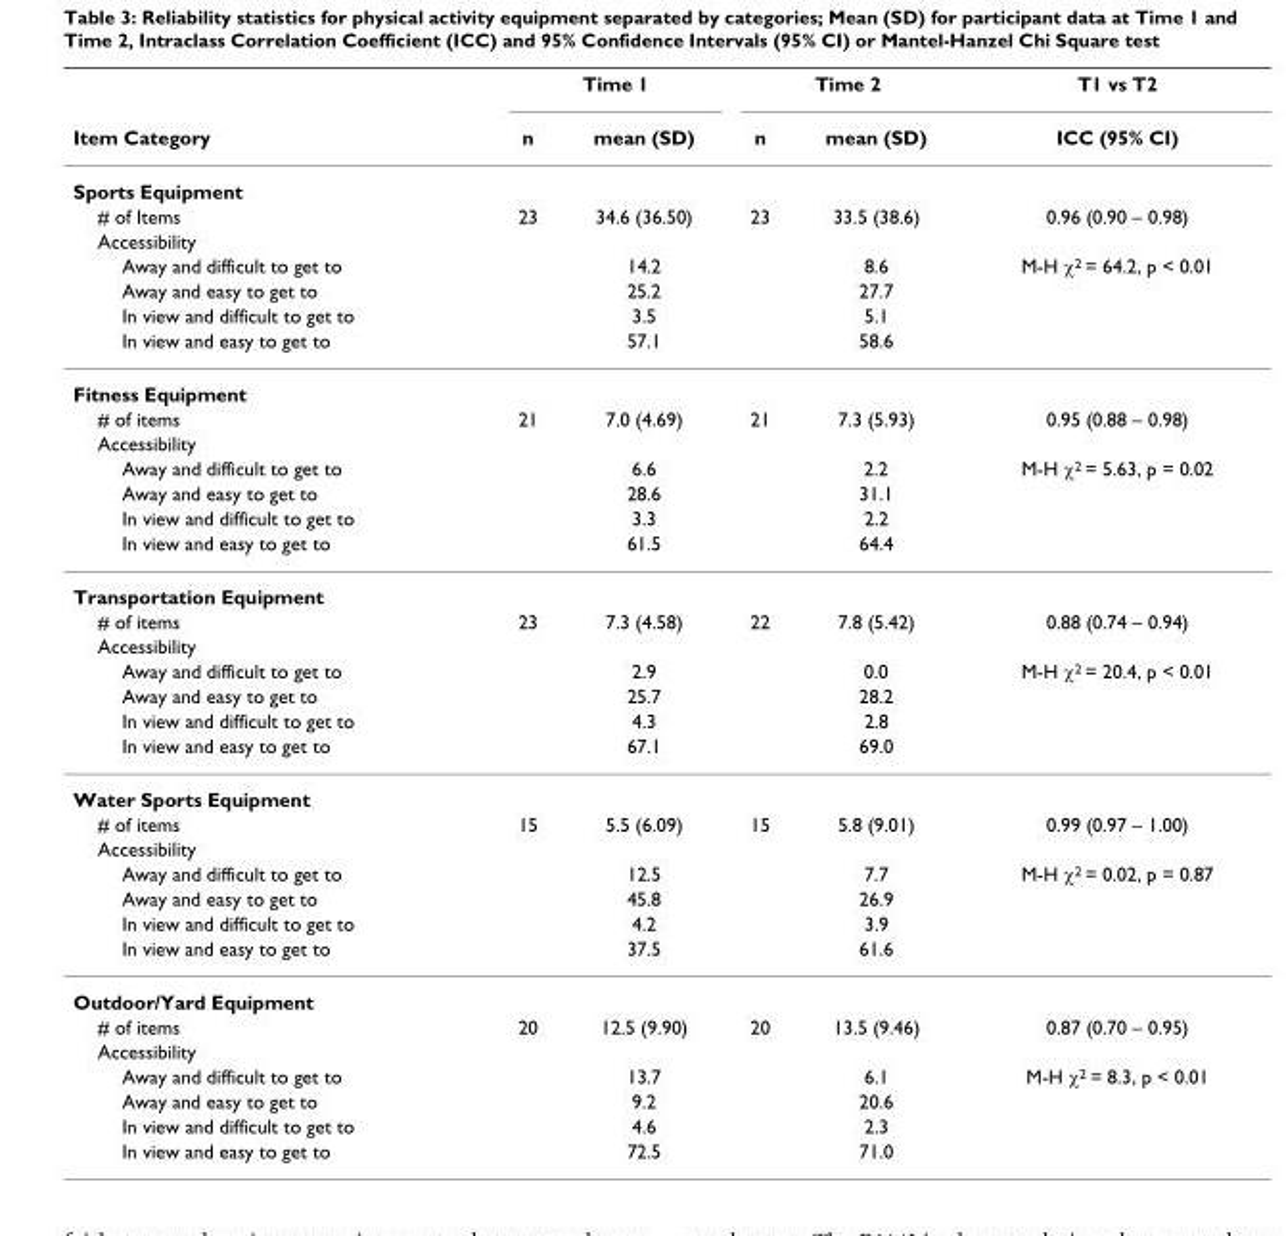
<table><thead><tr><td rowspan="2">Item Category</td><td colspan="2">Time 1</td><td colspan="2">Time 2</td><td rowspan="2">T1 vs T2 ICC (95% CI)</td></tr><tr><td>n</td><td>mean (SD)</td><td>n</td><td>mean (SD)</td></tr></thead><tbody><tr><td colspan="6">Sports Equipment</td></tr><tr><td># of Items</td><td>23</td><td>34.6 (36.50)</td><td>23</td><td>33.5 (38.6)</td><td>0.96 (0.90 – 0.98)</td></tr><tr><td colspan="6">Accessibility</td></tr><tr><td>Away and difficult to get to</td><td></td><td>14.2</td><td></td><td>8.6</td><td>M-H χ<sup>2</sup> = 64.2, p &lt; 0.01</td></tr><tr><td>Away and easy to get to</td><td></td><td>25.2</td><td></td><td>27.7</td><td></td></tr><tr><td>In view and difficult to get to</td><td></td><td>3.5</td><td></td><td>5.1</td><td></td></tr><tr><td>In view and easy to get to</td><td></td><td>57.1</td><td></td><td>58.6</td><td></td></tr><tr><td colspan="6">Fitness Equipment</td></tr><tr><td># of items</td><td>21</td><td>7.0 (4.69)</td><td>21</td><td>7.3 (5.93)</td><td>0.95 (0.88 – 0.98)</td></tr><tr><td colspan="6">Accessibility</td></tr><tr><td>Away and difficult to get to</td><td></td><td>6.6</td><td></td><td>2.2</td><td>M-H χ<sup>2</sup> = 5.63, p = 0.02</td></tr><tr><td>Away and easy to get to</td><td></td><td>28.6</td><td></td><td>31.1</td><td></td></tr><tr><td>In view and difficult to get to</td><td></td><td>3.3</td><td></td><td>2.2</td><td></td></tr><tr><td>In view and easy to get to</td><td></td><td>61.5</td><td></td><td>64.4</td><td></td></tr><tr><td colspan="6">Transportation Equipment</td></tr><tr><td># of items</td><td>23</td><td>7.3 (4.58)</td><td>22</td><td>7.8 (5.42)</td><td>0.88 (0.74 – 0.94)</td></tr><tr><td colspan="6">Accessibility</td></tr><tr><td>Away and difficult to get to</td><td></td><td>2.9</td><td></td><td>0.0</td><td>M-H χ<sup>2</sup> = 20.4, p &lt; 0.01</td></tr><tr><td>Away and easy to get to</td><td></td><td>25.7</td><td></td><td>28.2</td><td></td></tr><tr><td>In view and difficult to get to</td><td></td><td>4.3</td><td></td><td>2.8</td><td></td></tr><tr><td>In view and easy to get to</td><td></td><td>67.1</td><td></td><td>69.0</td><td></td></tr><tr><td colspan="6">Water Sports Equipment</td></tr><tr><td># of items</td><td>15</td><td>5.5 (6.09)</td><td>15</td><td>5.8 (9.01)</td><td>0.99 (0.97 – 1.00)</td></tr><tr><td colspan="6">Accessibility</td></tr><tr><td>Away and difficult to get to</td><td></td><td>12.5</td><td></td><td>7.7</td><td>M-H χ<sup>2</sup> = 0.02, p = 0.87</td></tr><tr><td>Away and easy to get to</td><td></td><td>45.8</td><td></td><td>26.9</td><td></td></tr><tr><td>In view and difficult to get to</td><td></td><td>4.2</td><td></td><td>3.9</td><td></td></tr><tr><td>In view and easy to get to</td><td></td><td>37.5</td><td></td><td>61.6</td><td></td></tr><tr><td colspan="6">Outdoor/Yard Equipment</td></tr><tr><td># of items</td><td>20</td><td>12.5 (9.90)</td><td>20</td><td>13.5 (9.46)</td><td>0.87 (0.70 – 0.95)</td></tr><tr><td colspan="6">Accessibility</td></tr><tr><td>Away and difficult to get to</td><td></td><td>13.7</td><td></td><td>6.1</td><td>M-H χ<sup>2</sup> = 8.3, p &lt; 0.01</td></tr><tr><td>Away and easy to get to</td><td></td><td>9.2</td><td></td><td>20.6</td><td></td></tr><tr><td>In view and difficult to get to</td><td></td><td>4.6</td><td></td><td>2.3</td><td></td></tr><tr><td>In view and easy to get to</td><td></td><td>72.5</td><td></td><td>71.0</td><td></td></tr></tbody></table>